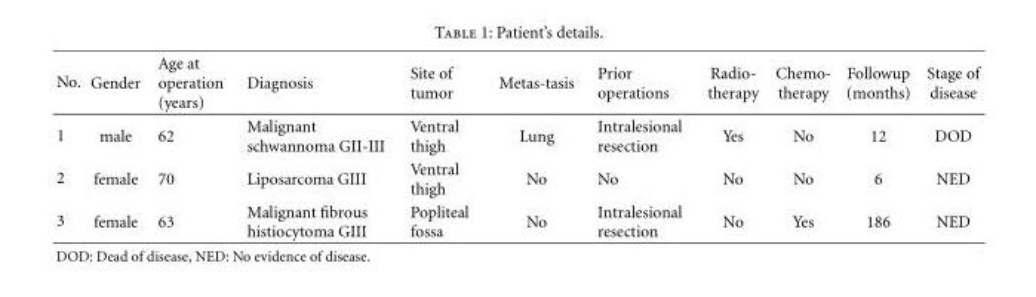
<table><thead><tr><td>No.</td><td>Gender</td><td>Age at operation (years)</td><td>Diagnosis</td><td>Site of tumor</td><td>Metas-tasis</td><td>Prior operations</td><td>Radio- therapy</td><td>Chemo- therapy</td><td>Followup (months)</td><td>Stage of disease</td></tr></thead><tbody><tr><td>1</td><td>male</td><td>62</td><td>Malignant schwannoma GII-III</td><td>Ventral thigh</td><td>Lung</td><td>Intralesional resection</td><td>Yes</td><td>No</td><td>12</td><td>DOD</td></tr><tr><td>2</td><td>female</td><td>70</td><td>Liposarcoma GIII</td><td>Ventral thigh</td><td>No</td><td>No</td><td>No</td><td>No</td><td>6</td><td>NED</td></tr><tr><td>3</td><td>female</td><td>63</td><td>Malignant fibrous histiocytoma GIII</td><td>Popliteal fossa</td><td>No</td><td>Intralesional resection</td><td>No</td><td>Yes</td><td>186</td><td>NED</td></tr></tbody></table>